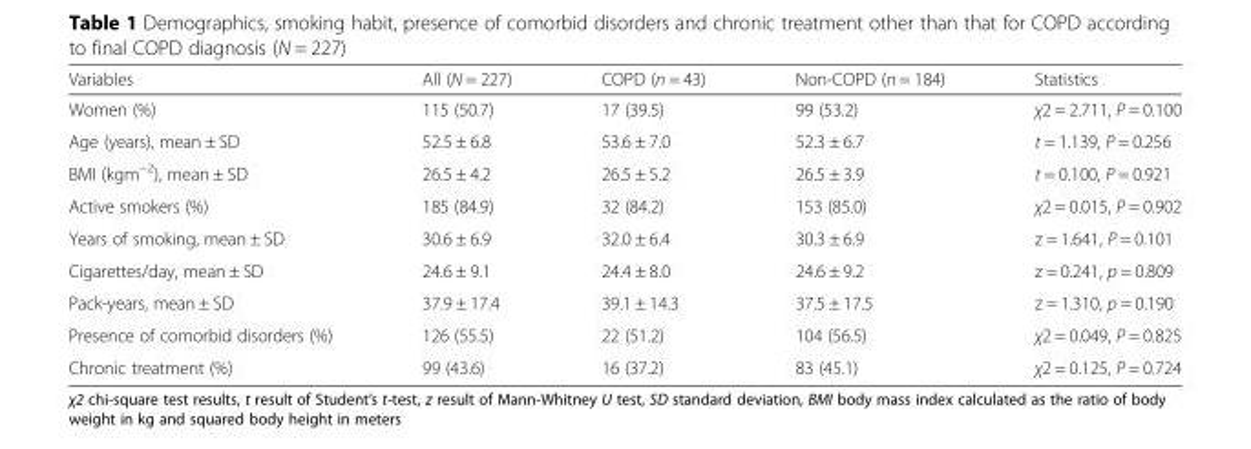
<table><thead><tr><td>Variables</td><td>All (N = 227)</td><td>COPD (n = 43)</td><td>Non-COPD (n = 184)</td><td>Statistics</td></tr></thead><tbody><tr><td>Women (%)</td><td>115 (50.7)</td><td>17 (39.5)</td><td>99 (53.2)</td><td>χ2 = 2.711, P = 0.100</td></tr><tr><td>Age (years), mean ± SD</td><td>52.5 ± 6.8</td><td>53.6 ± 7.0</td><td>52.3 ± 6.7</td><td>t = 1.139, P = 0.256</td></tr><tr><td>BMI (kgm<sup>−2</sup>), mean ± SD</td><td>26.5 ± 4.2</td><td>26.5 ± 5.2</td><td>26.5 ± 3.9</td><td>t = 0.100, P = 0.921</td></tr><tr><td>Active smokers (%)</td><td>185 (84.9)</td><td>32 (84.2)</td><td>153 (85.0)</td><td>χ2 = 0.015, P = 0.902</td></tr><tr><td>Years of smoking, mean ± SD</td><td>30.6 ± 6.9</td><td>32.0 ± 6.4</td><td>30.3 ± 6.9</td><td>z = 1.641, P = 0.101</td></tr><tr><td>Cigarettes/day, mean ± SD</td><td>24.6 ± 9.1</td><td>24.4 ± 8.0</td><td>24.6 ± 9.2</td><td>z = 0.241, p = 0.809</td></tr><tr><td>Pack-years, mean ± SD</td><td>37.9 ± 17.4</td><td>39.1 ± 14.3</td><td>37.5 ± 17.5</td><td>z = 1.310, p = 0.190</td></tr><tr><td>Presence of comorbid disorders (%)</td><td>126 (55.5)</td><td>22 (51.2)</td><td>104 (56.5)</td><td>χ2 = 0.049, P = 0.825</td></tr><tr><td>Chronic treatment (%)</td><td>99 (43.6)</td><td>16 (37.2)</td><td>83 (45.1)</td><td>χ2 = 0.125, P = 0.724</td></tr></tbody></table>